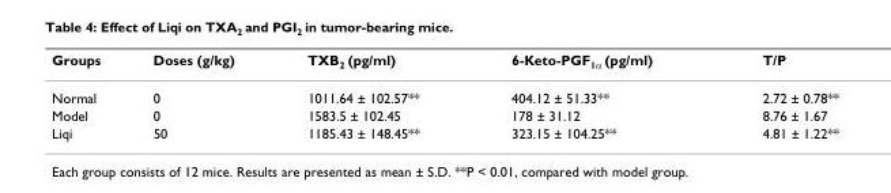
<table><thead><tr><td>Groups</td><td>Doses (g/kg)</td><td>TXB<sub>2</sub> (pg/ml)</td><td>6-Keto-PGF<sub>1α</sub> (pg/ml)</td><td>T/P</td></tr></thead><tbody><tr><td>Normal</td><td>0</td><td>1011.64 ± 102.57**</td><td>404.12 ± 51.33**</td><td>2.72 ± 0.78**</td></tr><tr><td>Model</td><td>0</td><td>1583.5 ± 102.45</td><td>178 ± 31.12</td><td>8.76 ± 1.67</td></tr><tr><td>Liqi</td><td>50</td><td>1185.43 ± 148.45**</td><td>323.15 ± 104.25**</td><td>4.81 ± 1.22**</td></tr></tbody></table>